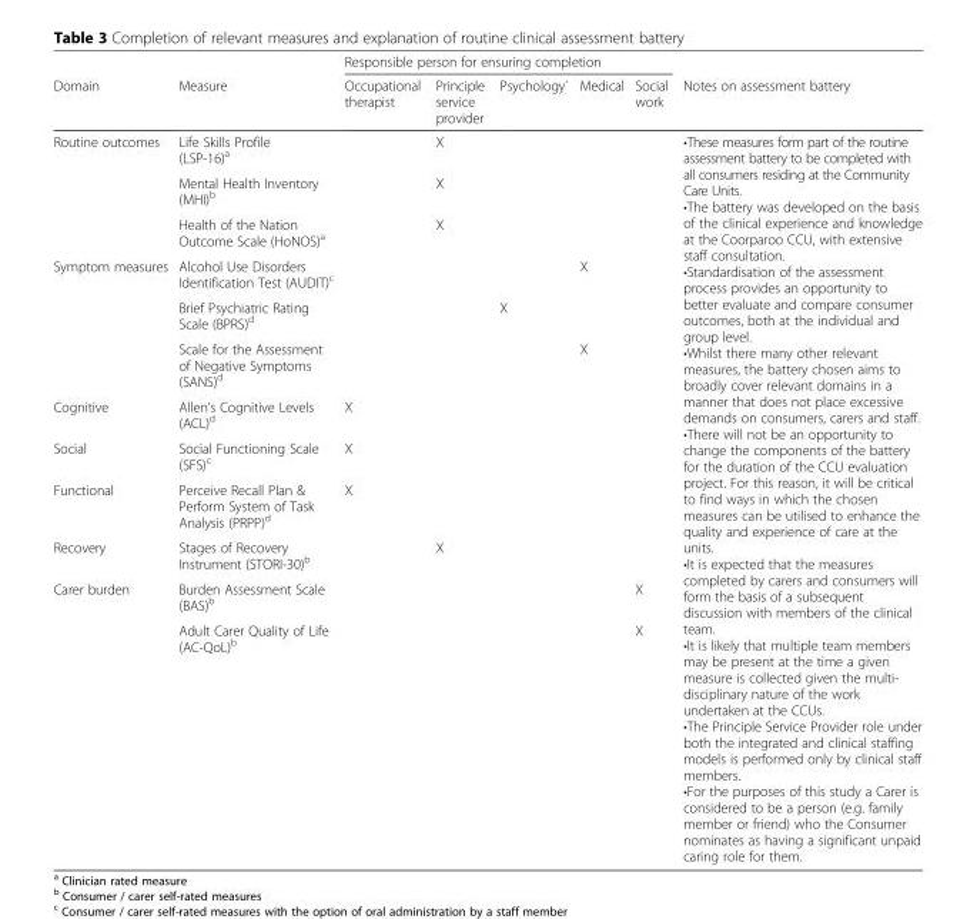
<table><thead><tr><td rowspan="2">Domain</td><td rowspan="2">Measure</td><td colspan="5">Responsible person for ensuring completion</td><td rowspan="2">Notes on assessment battery</td></tr><tr><td>Occupational therapist</td><td>Principle service provider</td><td>Psychology`</td><td>Medical</td><td>Social work</td></tr></thead><tbody><tr><td rowspan="3">Routine outcomes</td><td>Life Skills Profile (LSP-16)<sup>a</sup></td><td></td><td>X</td><td></td><td></td><td></td><td rowspan="12">•These measures form part of the routine assessment battery to be completed with all consumers residing at the Community Care Units. •The battery was developed on the basis of the clinical experience and knowledge at the Coorparoo CCU, with extensive staff consultation. •Standardisation of the assessment process provides an opportunity to better evaluate and compare consumer outcomes, both at the individual and group level. •Whilst there many other relevant measures, the battery chosen aims to broadly cover relevant domains in a manner that does not place excessive demands on consumers, carers and staff. •There will not be an opportunity to change the components of the battery for the duration of the CCU evaluation project. For this reason, it will be critical to find ways in which the chosen measures can be utilised to enhance the quality and experience of care at the units. •It is expected that the measures completed by carers and consumers will form the basis of a subsequent discussion with members of the clinical team. •It is likely that multiple team members may be present at the time a given measure is collected given the multi- disciplinary nature of the work undertaken at the CCUs. •The Principle Service Provider role under both the integrated and clinical staffing models is performed only by clinical staff members. •For the purposes of this study a Carer is considered to be a person (e.g. family member or friend) who the Consumer nominates as having a significant unpaid caring role for them.</td></tr><tr><td>Mental Health Inventory (MHI)<sup>b</sup></td><td></td><td>X</td><td></td><td></td><td></td></tr><tr><td>Health of the Nation Outcome Scale (HoNOS)<sup>a</sup></td><td></td><td>X</td><td></td><td></td><td></td></tr><tr><td rowspan="3">Symptom measures</td><td>Alcohol Use Disorders Identification Test (AUDIT)<sup>c</sup></td><td></td><td></td><td></td><td>X</td><td></td></tr><tr><td>Brief Psychiatric Rating Scale (BPRS)<sup>d</sup></td><td></td><td></td><td>X</td><td></td><td></td></tr><tr><td>Scale for the Assessment of Negative Symptoms (SANS)<sup>d</sup></td><td></td><td></td><td></td><td>X</td><td></td></tr><tr><td>Cognitive</td><td>Allen’s Cognitive Levels (ACL)<sup>d</sup></td><td>X</td><td></td><td></td><td></td><td></td></tr><tr><td>Social</td><td>Social Functioning Scale (SFS)<sup>c</sup></td><td>X</td><td></td><td></td><td></td><td></td></tr><tr><td>Functional</td><td>Perceive Recall Plan &amp; Perform System of Task Analysis (PRPP)<sup>d</sup></td><td>X</td><td></td><td></td><td></td><td></td></tr><tr><td>Recovery</td><td>Stages of Recovery Instrument (STORI-30)<sup>b</sup></td><td></td><td>X</td><td></td><td></td><td></td></tr><tr><td rowspan="2">Carer burden</td><td>Burden Assessment Scale (BAS)<sup>b</sup></td><td></td><td></td><td></td><td></td><td>X</td></tr><tr><td>Adult Carer Quality of Life (AC-QoL)<sup>b</sup></td><td></td><td></td><td></td><td></td><td>X</td></tr></tbody></table>